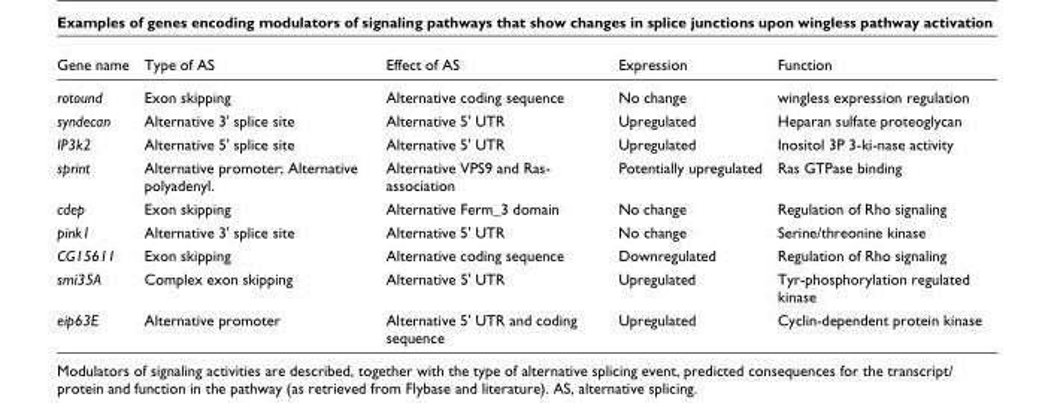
<table><thead><tr><td>Gene name</td><td>Type of AS</td><td>Effect of AS</td><td>Expression</td><td>Function</td></tr></thead><tbody><tr><td>rotound</td><td>Exon skipping</td><td>Alternative coding sequence</td><td>No change</td><td>wingless expression regulation</td></tr><tr><td>syndecan</td><td>Alternative 3&#x27; splice site</td><td>Alternative 5&#x27; UTR</td><td>Upregulated</td><td>Heparan sulfate proteoglycan</td></tr><tr><td>IP3k2</td><td>Alternative 5&#x27; splice site</td><td>Alternative 5&#x27; UTR</td><td>Upregulated</td><td>Inositol 3P 3-ki-nase activity</td></tr><tr><td>sprint</td><td>Alternative promoter; Alternative polyadenyl.</td><td>Alternative VPS9 and Ras- association</td><td>Potentially upregulated</td><td>Ras GTPase binding</td></tr><tr><td>cdep</td><td>Exon skipping</td><td>Alternative Ferm_3 domain</td><td>No change</td><td>Regulation of Rho signaling</td></tr><tr><td>pink1</td><td>Alternative 3&#x27; splice site</td><td>Alternative 5&#x27; UTR</td><td>No change</td><td>Serine/threonine kinase</td></tr><tr><td>CG15611</td><td>Exon skipping</td><td>Alternative coding sequence</td><td>Downregulated</td><td>Regulation of Rho signaling</td></tr><tr><td>smi35A</td><td>Complex exon skipping</td><td>Alternative 5&#x27; UTR</td><td>Upregulated</td><td>Tyr-phosphorylation regulated kinase</td></tr><tr><td>eip63E</td><td>Alternative promoter</td><td>Alternative 5&#x27; UTR and coding sequence</td><td>Upregulated</td><td>Cyclin-dependent protein kinase</td></tr></tbody></table>